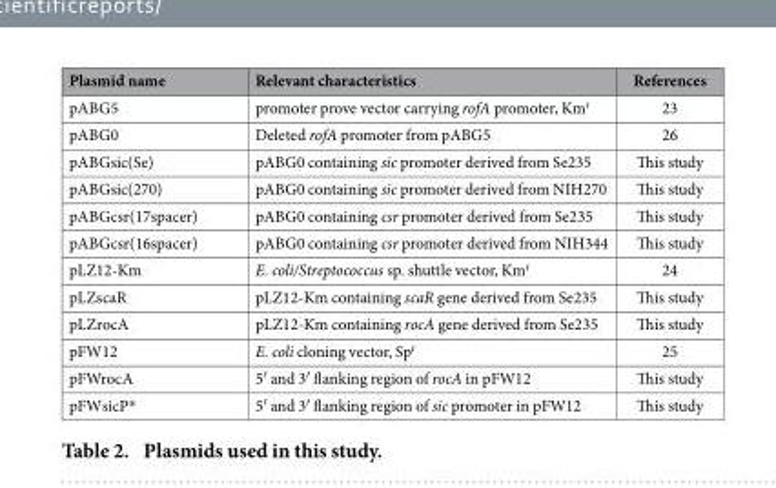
<table><thead><tr><td>Plasmid name</td><td>Relevant characteristics</td><td>References</td></tr></thead><tbody><tr><td>pABG5</td><td>promoter prove vector carrying rofA promoter, Km<sup>r</sup></td><td>23</td></tr><tr><td>pABG0</td><td>Deleted rofA promoter from pABG5</td><td>26</td></tr><tr><td>pABGsic(Se)</td><td>pABG0 containing sic promoter derived from Se235</td><td>This study</td></tr><tr><td>pABGsic(270)</td><td>pABG0 containing sic promoter derived from NIH270</td><td>This study</td></tr><tr><td>pABGcsr(17spacer)</td><td>pABG0 containing csr promoter derived from Se235</td><td>This study</td></tr><tr><td>pABGcsr(16spacer)</td><td>pABG0 containing csr promoter derived from NIH344</td><td>This study</td></tr><tr><td>pLZ12-Km</td><td>E. coli/Streptococcus sp. shuttle vector, Km<sup>r</sup></td><td>24</td></tr><tr><td>pLZscaR</td><td>pLZ12-Km containing scaR gene derived from Se235</td><td>This study</td></tr><tr><td>pLZrocA</td><td>pLZ12-Km containing rocA gene derived from Se235</td><td>This study</td></tr><tr><td>pFW12</td><td>E. coli cloning vector, Sp<sup>r</sup></td><td>25</td></tr><tr><td>pFWrocA</td><td>5′ and 3′ flanking region of rocA in pFW12</td><td>This study</td></tr><tr><td>pFWsicP*</td><td>5′ and 3′ flanking region of sic promoter in pFW12</td><td>This study</td></tr></tbody></table>